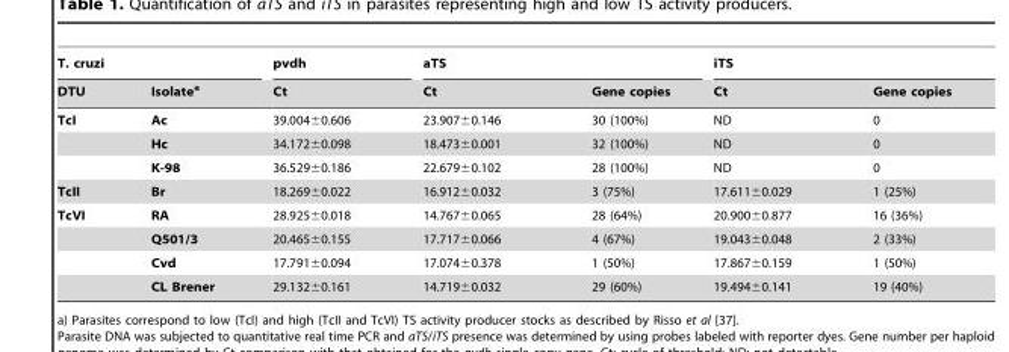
<table><thead><tr><td colspan="2">T. cruzi</td><td rowspan="2">pvdh Ct</td><td colspan="2">aTS</td><td colspan="2">iTS</td></tr><tr><td>DTU</td><td>Isolate<sup>a</sup></td><td>Ct</td><td>Gene copies</td><td>Ct</td><td>Gene copies</td></tr></thead><tbody><tr><td rowspan="3">TcI</td><td>Ac</td><td>39.004±0.606</td><td>23.907±0.146</td><td>30 (100%)</td><td>ND</td><td>0</td></tr><tr><td>Hc</td><td>34.172±0.098</td><td>18.473±0.001</td><td>32 (100%)</td><td>ND</td><td>0</td></tr><tr><td>K-98</td><td>36.529±0.186</td><td>22.679±0.102</td><td>28 (100%)</td><td>ND</td><td>0</td></tr><tr><td>TcII</td><td>Br</td><td>18.269±0.022</td><td>16.912±0.032</td><td>3 (75%)</td><td>17.611±0.029</td><td>1 (25%)</td></tr><tr><td rowspan="4">TcVI</td><td>RA</td><td>28.925±0.018</td><td>14.767±0.065</td><td>28 (64%)</td><td>20.900±0.877</td><td>16 (36%)</td></tr><tr><td>Q501/3</td><td>20.465±0.155</td><td>17.717±0.066</td><td>4 (67%)</td><td>19.043±0.048</td><td>2 (33%)</td></tr><tr><td>Cvd</td><td>17.791±0.094</td><td>17.074±0.378</td><td>1 (50%)</td><td>17.867±0.159</td><td>1 (50%)</td></tr><tr><td>CL Brener</td><td>29.132±0.161</td><td>14.719±0.032</td><td>29 (60%)</td><td>19.494±0.141</td><td>19 (40%)</td></tr></tbody></table>